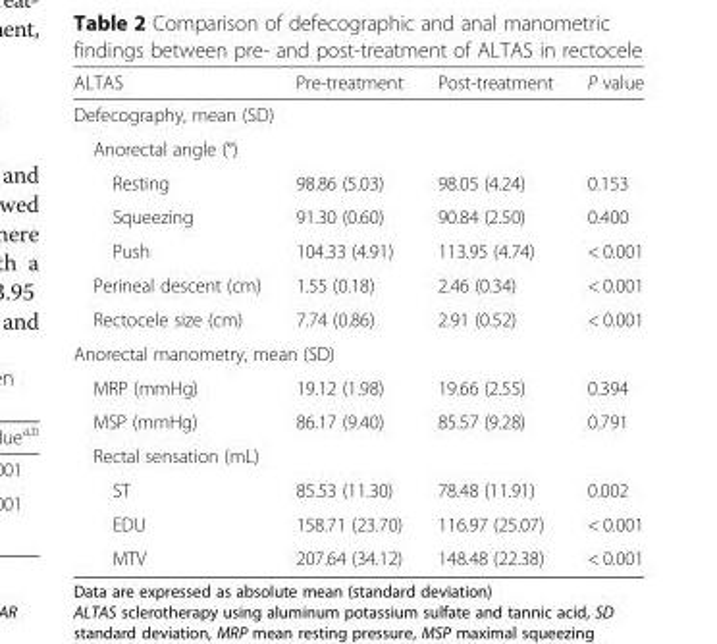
<table><thead><tr><td>ALTAS</td><td>Pre-treatment</td><td>Post-treatment</td><td>P value</td></tr></thead><tbody><tr><td colspan="4">Defecography, mean (SD)</td></tr><tr><td colspan="4">Anorectal angle (°)</td></tr><tr><td>Resting</td><td>98.86 (5.03)</td><td>98.05 (4.24)</td><td>0.153</td></tr><tr><td>Squeezing</td><td>91.30 (0.60)</td><td>90.84 (2.50)</td><td>0.400</td></tr><tr><td>Push</td><td>104.33 (4.91)</td><td>113.95 (4.74)</td><td>&lt; 0.001</td></tr><tr><td>Perineal descent (cm)</td><td>1.55 (0.18)</td><td>2.46 (0.34)</td><td>&lt; 0.001</td></tr><tr><td>Rectocele size (cm)</td><td>7.74 (0.86)</td><td>2.91 (0.52)</td><td>&lt; 0.001</td></tr><tr><td colspan="4">Anorectal manometry, mean (SD)</td></tr><tr><td>MRP (mmHg)</td><td>19.12 (1.98)</td><td>19.66 (2.55)</td><td>0.394</td></tr><tr><td>MSP (mmHg)</td><td>86.17 (9.40)</td><td>85.57 (9.28)</td><td>0.791</td></tr><tr><td colspan="4">Rectal sensation (mL)</td></tr><tr><td>ST</td><td>85.53 (11.30)</td><td>78.48 (11.91)</td><td>0.002</td></tr><tr><td>EDU</td><td>158.71 (23.70)</td><td>116.97 (25.07)</td><td>&lt; 0.001</td></tr><tr><td>MTV</td><td>207.64 (34.12)</td><td>148.48 (22.38)</td><td>&lt; 0.001</td></tr></tbody></table>